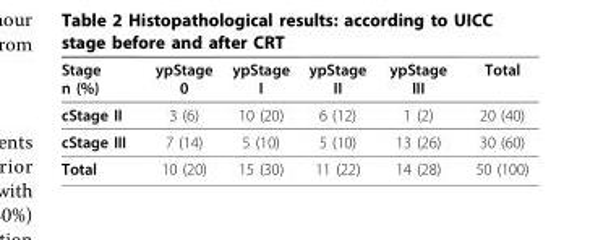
<table><thead><tr><td>Stage n (%)</td><td>ypStage 0</td><td>ypStage I</td><td>ypStage II</td><td>ypStage III</td><td>Total</td></tr></thead><tbody><tr><td>cStage II</td><td>3 (6)</td><td>10 (20)</td><td>6 (12)</td><td>1 (2)</td><td>20 (40)</td></tr><tr><td>cStage III</td><td>7 (14)</td><td>5 (10)</td><td>5 (10)</td><td>13 (26)</td><td>30 (60)</td></tr><tr><td>Total</td><td>10 (20)</td><td>15 (30)</td><td>11 (22)</td><td>14 (28)</td><td>50 (100)</td></tr></tbody></table>